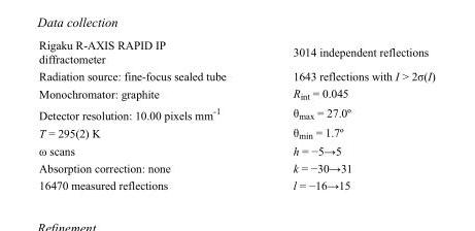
<table><tbody><tr><td>Rigaku R-AXIS RAPID IP diffractometer</td><td>3014 independent reflections</td></tr><tr><td>Radiation source: fine-focus sealed tube</td><td>1643 reflections with I &gt; 2σ(I)</td></tr><tr><td>Monochromator: graphite</td><td>R<sub>int</sub> = 0.045</td></tr><tr><td>Detector resolution: 10.00 pixels mm<sup>-1</sup></td><td>θ<sub>max</sub> = 27.0º</td></tr><tr><td>T = 295(2) K</td><td>θ<sub>min</sub> = 1.7º</td></tr><tr><td>ω scans</td><td>h = −5→5</td></tr><tr><td>Absorption correction: none</td><td>k = −30→31</td></tr><tr><td>16470 measured reflections</td><td>l = −16→15</td></tr></tbody></table>